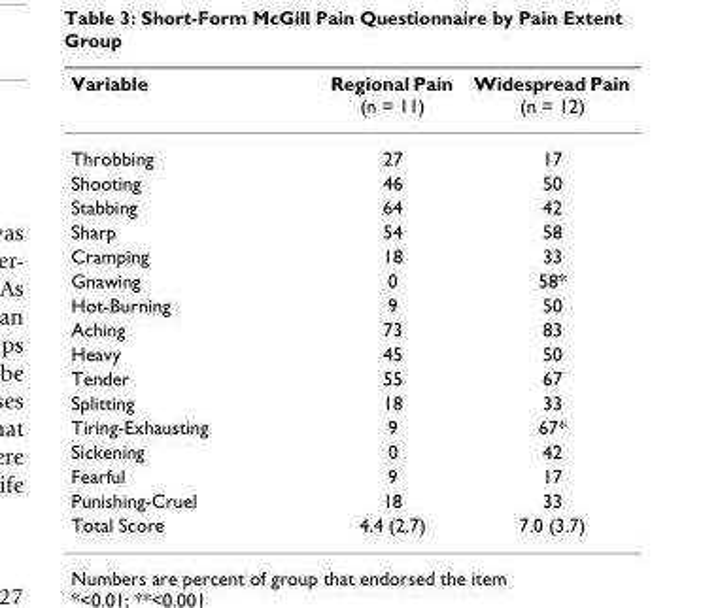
<table><thead><tr><td>Variable</td><td>Regional Pain (n = 11)</td><td>Widespread Pain (n = 12)</td></tr></thead><tbody><tr><td>Throbbing</td><td>27</td><td>17</td></tr><tr><td>Shooting</td><td>46</td><td>50</td></tr><tr><td>Stabbing</td><td>64</td><td>42</td></tr><tr><td>Sharp</td><td>54</td><td>58</td></tr><tr><td>Cramping</td><td>18</td><td>33</td></tr><tr><td>Gnawing</td><td>0</td><td>58*</td></tr><tr><td>Hot-Burning</td><td>9</td><td>50</td></tr><tr><td>Aching</td><td>73</td><td>83</td></tr><tr><td>Heavy</td><td>45</td><td>50</td></tr><tr><td>Tender</td><td>55</td><td>67</td></tr><tr><td>Splitting</td><td>18</td><td>33</td></tr><tr><td>Tiring-Exhausting</td><td>9</td><td>67*</td></tr><tr><td>Sickening</td><td>0</td><td>42</td></tr><tr><td>Fearful</td><td>9</td><td>17</td></tr><tr><td>Punishing-Cruel</td><td>18</td><td>33</td></tr><tr><td>Total Score</td><td>4.4 (2.7)</td><td>7.0 (3.7)</td></tr></tbody></table>